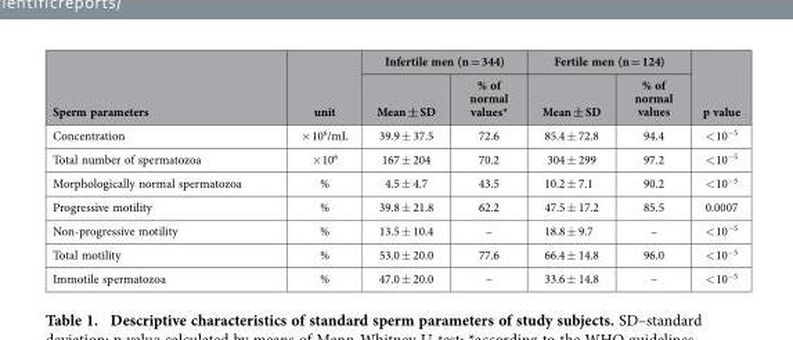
<table><thead><tr><td rowspan="2">Sperm parameters</td><td rowspan="2">unit</td><td colspan="2">Infertile men (n = 344)</td><td colspan="2">Fertile men (n = 124)</td><td rowspan="2">p value</td></tr><tr><td>Mean ± SD</td><td>% of normal values*</td><td>Mean ± SD</td><td>% of normal values</td></tr></thead><tbody><tr><td>Concentration</td><td>× 10<sup>6</sup>/mL</td><td>39.9 ± 37.5</td><td>72.6</td><td>85.4 ± 72.8</td><td>94.4</td><td>&lt; 10<sup>−5</sup></td></tr><tr><td>Total number of spermatozoa</td><td>× 10<sup>6</sup></td><td>167 ± 204</td><td>70.2</td><td>304 ± 299</td><td>97.2</td><td>&lt; 10<sup>−5</sup></td></tr><tr><td>Morphologically normal spermatozoa</td><td>%</td><td>4.5 ± 4.7</td><td>43.5</td><td>10.2 ± 7.1</td><td>90.2</td><td>&lt; 10<sup>−5</sup></td></tr><tr><td>Progressive motility</td><td>%</td><td>39.8 ± 21.8</td><td>62.2</td><td>47.5 ± 17.2</td><td>85.5</td><td>0.0007</td></tr><tr><td>Non-progressive motility</td><td>%</td><td>13.5 ± 10.4</td><td>–</td><td>18.8 ± 9.7</td><td>–</td><td>&lt; 10<sup>−5</sup></td></tr><tr><td>Total motility</td><td>%</td><td>53.0 ± 20.0</td><td>77.6</td><td>66.4 ± 14.8</td><td>96.0</td><td>&lt; 10<sup>−5</sup></td></tr><tr><td>Immotile spermatozoa</td><td>%</td><td>47.0 ± 20.0</td><td>–</td><td>33.6 ± 14.8</td><td>–</td><td>&lt; 10<sup>−5</sup></td></tr></tbody></table>